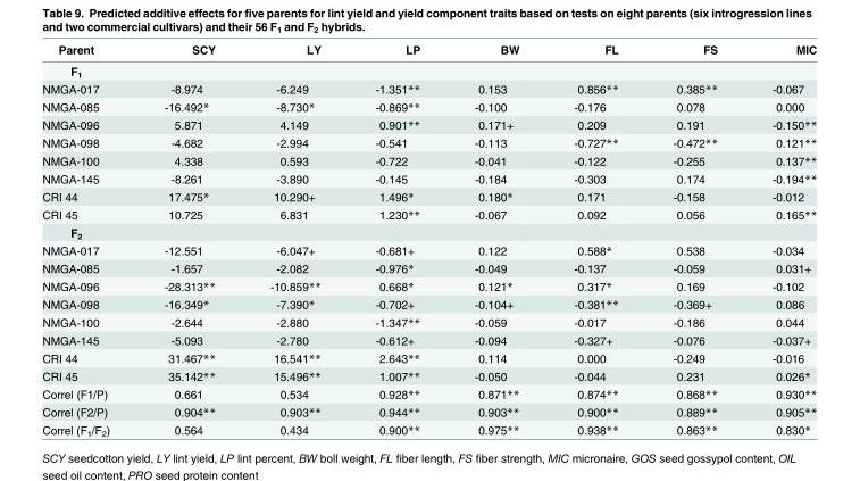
<table><thead><tr><td>Parent</td><td>SCY</td><td>LY</td><td>LP</td><td>BW</td><td>FL</td><td>FS</td><td>MIC</td></tr></thead><tbody><tr><td colspan="8">F<sub>1</sub></td></tr><tr><td>NMGA-017</td><td>-8.974</td><td>-6.249</td><td>-1.351**</td><td>0.153</td><td>0.856**</td><td>0.385**</td><td>-0.067</td></tr><tr><td>NMGA-085</td><td>-16.492*</td><td>-8.730*</td><td>-0.869**</td><td>-0.100</td><td>-0.176</td><td>0.078</td><td>0.000</td></tr><tr><td>NMGA-096</td><td>5.871</td><td>4.149</td><td>0.901**</td><td>0.171+</td><td>0.209</td><td>0.191</td><td>-0.150**</td></tr><tr><td>NMGA-098</td><td>-4.682</td><td>-2.994</td><td>-0.541</td><td>-0.113</td><td>-0.727**</td><td>-0.472**</td><td>0.121**</td></tr><tr><td>NMGA-100</td><td>4.338</td><td>0.593</td><td>-0.722</td><td>-0.041</td><td>-0.122</td><td>-0.255</td><td>0.137**</td></tr><tr><td>NMGA-145</td><td>-8.261</td><td>-3.890</td><td>-0.145</td><td>-0.184</td><td>-0.303</td><td>0.174</td><td>-0.194**</td></tr><tr><td>CRI 44</td><td>17.475*</td><td>10.290+</td><td>1.496*</td><td>0.180*</td><td>0.171</td><td>-0.158</td><td>-0.012</td></tr><tr><td>CRI 45</td><td>10.725</td><td>6.831</td><td>1.230**</td><td>-0.067</td><td>0.092</td><td>0.056</td><td>0.165**</td></tr><tr><td colspan="8">F<sub>2</sub></td></tr><tr><td>NMGA-017</td><td>-12.551</td><td>-6.047+</td><td>-0.681+</td><td>0.122</td><td>0.588*</td><td>0.538</td><td>-0.034</td></tr><tr><td>NMGA-085</td><td>-1.657</td><td>-2.082</td><td>-0.976*</td><td>-0.049</td><td>-0.137</td><td>-0.059</td><td>0.031+</td></tr><tr><td>NMGA-096</td><td>-28.313**</td><td>-10.859**</td><td>0.668*</td><td>0.121*</td><td>0.317*</td><td>0.169</td><td>-0.102</td></tr><tr><td>NMGA-098</td><td>-16.349*</td><td>-7.390*</td><td>-0.702+</td><td>-0.104+</td><td>-0.381**</td><td>-0.369+</td><td>0.086</td></tr><tr><td>NMGA-100</td><td>-2.644</td><td>-2.880</td><td>-1.347**</td><td>-0.059</td><td>-0.017</td><td>-0.186</td><td>0.044</td></tr><tr><td>NMGA-145</td><td>-5.093</td><td>-2.780</td><td>-0.612+</td><td>-0.094</td><td>-0.327+</td><td>-0.076</td><td>-0.037+</td></tr><tr><td>CRI 44</td><td>31.467**</td><td>16.541**</td><td>2.643**</td><td>0.114</td><td>0.000</td><td>-0.249</td><td>-0.016</td></tr><tr><td>CRI 45</td><td>35.142**</td><td>15.496**</td><td>1.007**</td><td>-0.050</td><td>-0.044</td><td>0.231</td><td>0.026*</td></tr><tr><td>Correl (F1/P)</td><td>0.661</td><td>0.534</td><td>0.928**</td><td>0.871**</td><td>0.874**</td><td>0.868**</td><td>0.930**</td></tr><tr><td>Correl (F2/P)</td><td>0.904**</td><td>0.903**</td><td>0.944**</td><td>0.903**</td><td>0.900**</td><td>0.889**</td><td>0.905**</td></tr><tr><td>Correl (F<sub>1</sub>/F<sub>2</sub>)</td><td>0.564</td><td>0.434</td><td>0.900**</td><td>0.975**</td><td>0.938**</td><td>0.863**</td><td>0.830*</td></tr></tbody></table>